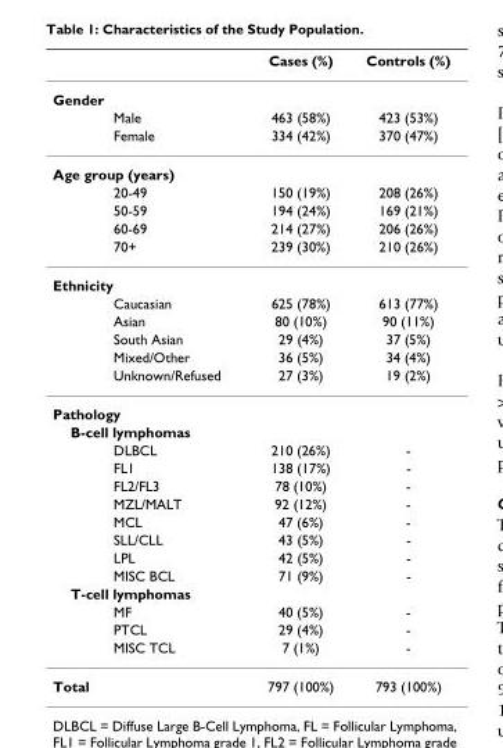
<table><thead><tr><td></td><td></td><td>Cases (%)</td><td>Controls (%)</td></tr></thead><tbody><tr><td colspan="4">Gender</td></tr><tr><td></td><td>Male</td><td>463 (58%)</td><td>423 (53%)</td></tr><tr><td></td><td>Female</td><td>334 (42%)</td><td>370 (47%)</td></tr><tr><td colspan="4">Age group (years)</td></tr><tr><td></td><td>20-49</td><td>150 (19%)</td><td>208 (26%)</td></tr><tr><td></td><td>50-59</td><td>194 (24%)</td><td>169 (21%)</td></tr><tr><td></td><td>60-69</td><td>214 (27%)</td><td>206 (26%)</td></tr><tr><td></td><td>70+</td><td>239 (30%)</td><td>210 (26%)</td></tr><tr><td colspan="4">Ethnicity</td></tr><tr><td></td><td>Caucasian</td><td>625 (78%)</td><td>613 (77%)</td></tr><tr><td></td><td>Asian</td><td>80 (10%)</td><td>90 (11%)</td></tr><tr><td></td><td>South Asian</td><td>29 (4%)</td><td>37 (5%)</td></tr><tr><td></td><td>Mixed/Other</td><td>36 (5%)</td><td>34 (4%)</td></tr><tr><td></td><td>Unknown/Refused</td><td>27 (3%)</td><td>19 (2%)</td></tr><tr><td colspan="4">Pathology</td></tr><tr><td colspan="4">B-cell lymphomas</td></tr><tr><td></td><td>DLBCL</td><td>210 (26%)</td><td>-</td></tr><tr><td></td><td>FL1</td><td>138 (17%)</td><td>-</td></tr><tr><td></td><td>FL2/FL3</td><td>78 (10%)</td><td>-</td></tr><tr><td></td><td>MZL/MALT</td><td>92 (12%)</td><td>-</td></tr><tr><td></td><td>MCL</td><td>47 (6%)</td><td>-</td></tr><tr><td></td><td>SLL/CLL</td><td>43 (5%)</td><td>-</td></tr><tr><td></td><td>LPL</td><td>42 (5%)</td><td>-</td></tr><tr><td></td><td>MISC BCL</td><td>71 (9%)</td><td>-</td></tr><tr><td colspan="4">T-cell lymphomas</td></tr><tr><td></td><td>MF</td><td>40 (5%)</td><td>-</td></tr><tr><td></td><td>PTCL</td><td>29 (4%)</td><td>-</td></tr><tr><td></td><td>MISC TCL</td><td>7 (1%)</td><td>-</td></tr><tr><td>Total</td><td></td><td>797 (100%)</td><td>793 (100%)</td></tr></tbody></table>